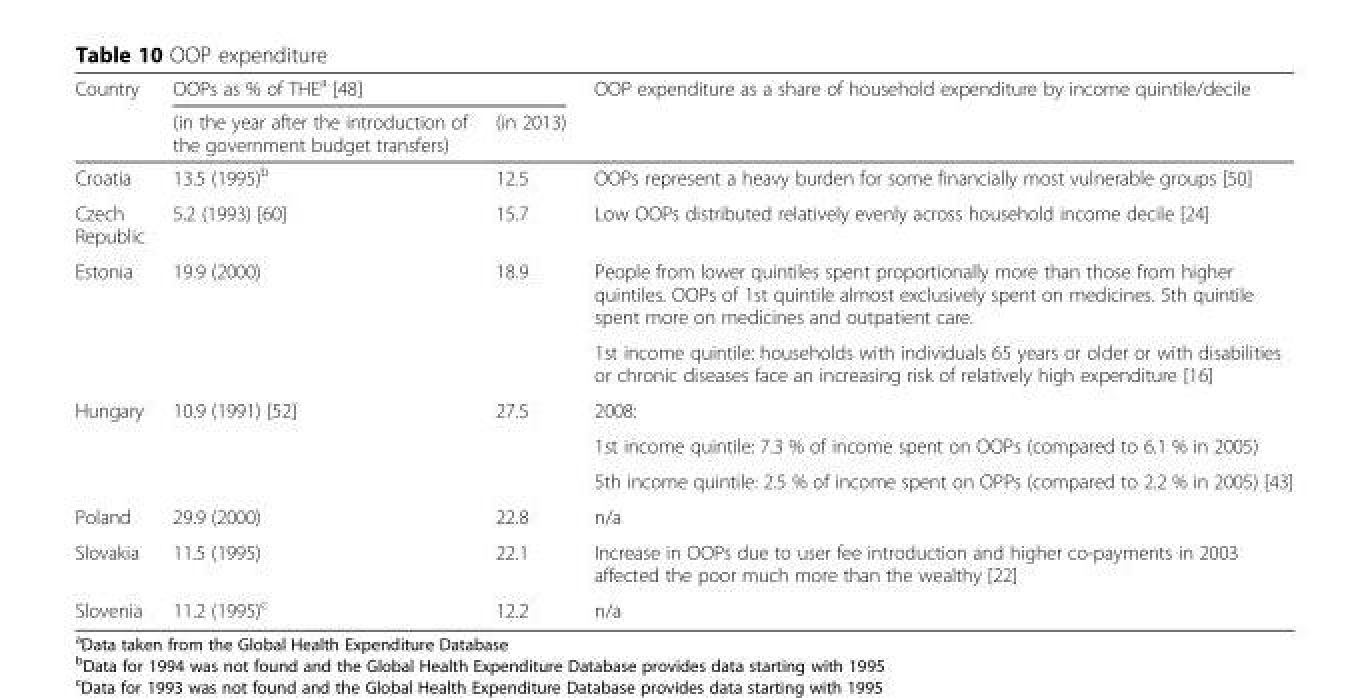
<table><thead><tr><td rowspan="2">Country</td><td colspan="2">OOPs as % of THE<sup>a</sup> [48]</td><td rowspan="2">OOP expenditure as a share of household expenditure by income quintile/decile</td></tr><tr><td>(in the year after the introduction of the government budget transfers)</td><td>(in 2013)</td></tr></thead><tbody><tr><td>Croatia</td><td>13.5 (1995)<sup>b</sup></td><td>12.5</td><td>OOPs represent a heavy burden for some financially most vulnerable groups [50]</td></tr><tr><td>Czech Republic</td><td>5.2 (1993) [60]</td><td>15.7</td><td>Low OOPs distributed relatively evenly across household income decile [24]</td></tr><tr><td rowspan="2">Estonia</td><td rowspan="2">19.9 (2000)</td><td rowspan="2">18.9</td><td>People from lower quintiles spent proportionally more than those from higher quintiles. OOPs of 1st quintile almost exclusively spent on medicines. 5th quintile spent more on medicines and outpatient care.</td></tr><tr><td>1st income quintile: households with individuals 65 years or older or with disabilities or chronic diseases face an increasing risk of relatively high expenditure [16]</td></tr><tr><td rowspan="3">Hungary</td><td rowspan="3">10.9 (1991) [52]</td><td rowspan="3">27.5</td><td>2008:</td></tr><tr><td>1st income quintile: 7.3 % of income spent on OOPs (compared to 6.1 % in 2005)</td></tr><tr><td>5th income quintile: 2.5 % of income spent on OPPs (compared to 2.2 % in 2005) [43]</td></tr><tr><td>Poland</td><td>29.9 (2000)</td><td>22.8</td><td>n/a</td></tr><tr><td>Slovakia</td><td>11.5 (1995)</td><td>22.1</td><td>Increase in OOPs due to user fee introduction and higher co-payments in 2003 affected the poor much more than the wealthy [22]</td></tr><tr><td>Slovenia</td><td>11.2 (1995)<sup>c</sup></td><td>12.2</td><td>n/a</td></tr></tbody></table>